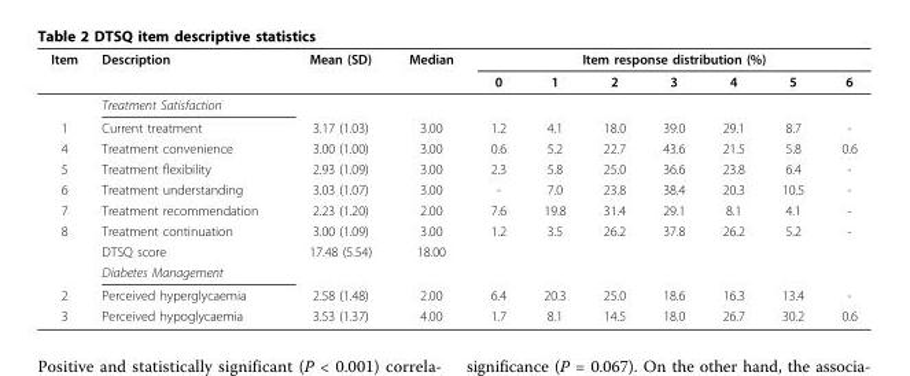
<table><thead><tr><td rowspan="2">Item</td><td rowspan="2">Description</td><td rowspan="2">Mean (SD)</td><td rowspan="2">Median</td><td colspan="7">Item response distribution (%)</td></tr><tr><td>0</td><td>1</td><td>2</td><td>3</td><td>4</td><td>5</td><td>6</td></tr></thead><tbody><tr><td></td><td>Treatment Satisfaction</td><td></td><td></td><td></td><td></td><td></td><td></td><td></td><td></td><td></td></tr><tr><td>1</td><td>Current treatment</td><td>3.17 (1.03)</td><td>3.00</td><td>1.2</td><td>4.1</td><td>18.0</td><td>39.0</td><td>29.1</td><td>8.7</td><td>-</td></tr><tr><td>4</td><td>Treatment convenience</td><td>3.00 (1.00)</td><td>3.00</td><td>0.6</td><td>5.2</td><td>22.7</td><td>43.6</td><td>21.5</td><td>5.8</td><td>0.6</td></tr><tr><td>5</td><td>Treatment flexibility</td><td>2.93 (1.09)</td><td>3.00</td><td>2.3</td><td>5.8</td><td>25.0</td><td>36.6</td><td>23.8</td><td>6.4</td><td>-</td></tr><tr><td>6</td><td>Treatment understanding</td><td>3.03 (1.07)</td><td>3.00</td><td>-</td><td>7.0</td><td>23.8</td><td>38.4</td><td>20.3</td><td>10.5</td><td>-</td></tr><tr><td>7</td><td>Treatment recommendation</td><td>2.23 (1.20)</td><td>2.00</td><td>7.6</td><td>19.8</td><td>31.4</td><td>29.1</td><td>8.1</td><td>4.1</td><td>-</td></tr><tr><td rowspan="3">8</td><td>Treatment continuation</td><td>3.00 (1.09)</td><td>3.00</td><td>1.2</td><td>3.5</td><td>26.2</td><td>37.8</td><td>26.2</td><td>5.2</td><td>-</td></tr><tr><td>DTSQ score</td><td>17.48 (5.54)</td><td>18.00</td><td></td><td></td><td></td><td></td><td></td><td></td><td></td></tr><tr><td>Diabetes Management</td><td></td><td></td><td></td><td></td><td></td><td></td><td></td><td></td><td></td></tr><tr><td>2</td><td>Perceived hyperglycaemia</td><td>2.58 (1.48)</td><td>2.00</td><td>6.4</td><td>20.3</td><td>25.0</td><td>18.6</td><td>16.3</td><td>13.4</td><td>-</td></tr><tr><td>3</td><td>Perceived hypoglycaemia</td><td>3.53 (1.37)</td><td>4.00</td><td>1.7</td><td>8.1</td><td>14.5</td><td>18.0</td><td>26.7</td><td>30.2</td><td>0.6</td></tr></tbody></table>